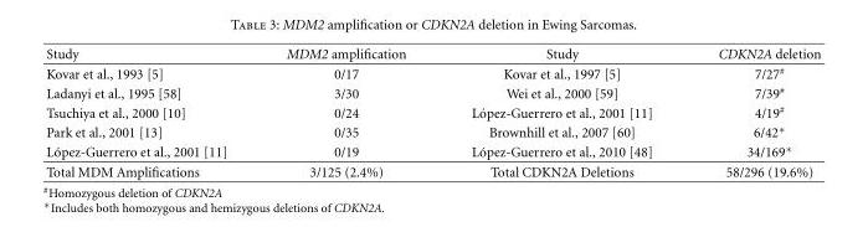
<table><thead><tr><td>Study</td><td>MDM2 amplification</td><td>Study</td><td>CDKN2A deletion</td></tr></thead><tbody><tr><td>Kovar et al., 1993 [5]</td><td>0/17</td><td>Kovar et al., 1997 [5]</td><td>7/27<sup>#</sup></td></tr><tr><td>Ladanyi et al., 1995 [58]</td><td>3/30</td><td>Wei et al., 2000 [59]</td><td>7/39<sup>#</sup></td></tr><tr><td>Tsuchiya et al., 2000 [10]</td><td>0/24</td><td>L´opez-Guerrero et al., 2001 [11]</td><td>4/19<sup>#</sup></td></tr><tr><td>Park et al., 2001 [13]</td><td>0/35</td><td>Brownhill et al., 2007 [60]</td><td>6/42∗</td></tr><tr><td>L´opez-Guerrero et al., 2001 [11]</td><td>0/19</td><td>L´opez-Guerrero et al., 2010 [48]</td><td>34/169∗</td></tr><tr><td>Total MDM Amplifications</td><td>3/125 (2.4%)</td><td>Total CDKN2A Deletions</td><td>58/296 (19.6%)</td></tr></tbody></table>